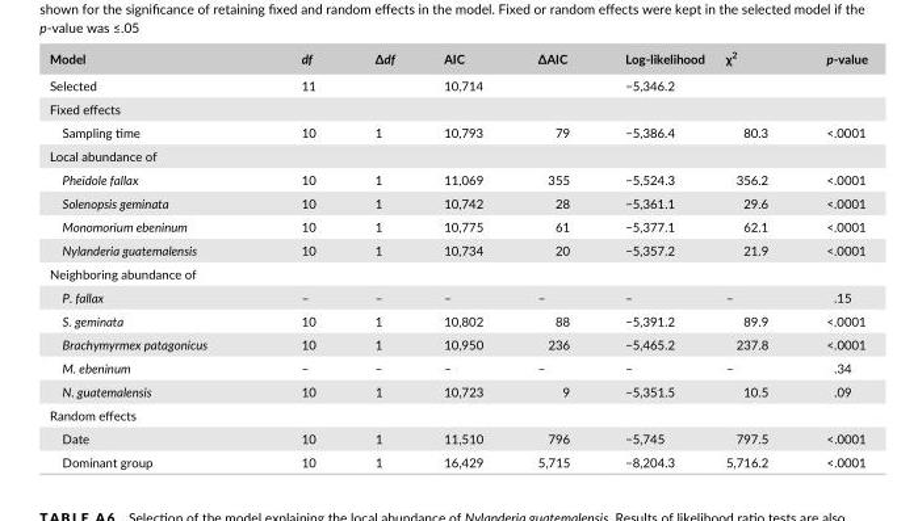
<table><thead><tr><td>Model</td><td>df</td><td>Δdf</td><td>AIC</td><td>ΔAIC</td><td>Log- likelihood</td><td>χ<sup>2</sup></td><td>p- value</td></tr></thead><tbody><tr><td>Selected</td><td>11</td><td></td><td>10,714</td><td></td><td>−5,346.2</td><td></td><td></td></tr><tr><td colspan="8">Fixed effects</td></tr><tr><td>Sampling time</td><td>10</td><td>1</td><td>10,793</td><td>79</td><td>−5,386.4</td><td>80.3</td><td>&lt;.0001</td></tr><tr><td colspan="8">Local abundance of</td></tr><tr><td>Pheidole fallax</td><td>10</td><td>1</td><td>11,069</td><td>355</td><td>−5,524.3</td><td>356.2</td><td>&lt;.0001</td></tr><tr><td>Solenopsis geminata</td><td>10</td><td>1</td><td>10,742</td><td>28</td><td>−5,361.1</td><td>29.6</td><td>&lt;.0001</td></tr><tr><td>Monomorium ebeninum</td><td>10</td><td>1</td><td>10,775</td><td>61</td><td>−5,377.1</td><td>62.1</td><td>&lt;.0001</td></tr><tr><td>Nylanderia guatemalensis</td><td>10</td><td>1</td><td>10,734</td><td>20</td><td>−5,357.2</td><td>21.9</td><td>&lt;.0001</td></tr><tr><td colspan="8">Neighboring abundance of</td></tr><tr><td>P. fallax</td><td>–</td><td>–</td><td>–</td><td>–</td><td>–</td><td>–</td><td>.15</td></tr><tr><td>S. geminata</td><td>10</td><td>1</td><td>10,802</td><td>88</td><td>−5,391.2</td><td>89.9</td><td>&lt;.0001</td></tr><tr><td>Brachymyrmex patagonicus</td><td>10</td><td>1</td><td>10,950</td><td>236</td><td>−5,465.2</td><td>237.8</td><td>&lt;.0001</td></tr><tr><td>M. ebeninum</td><td>–</td><td>–</td><td>–</td><td>–</td><td>–</td><td>–</td><td>.34</td></tr><tr><td>N. guatemalensis</td><td>10</td><td>1</td><td>10,723</td><td>9</td><td>−5,351.5</td><td>10.5</td><td>.09</td></tr><tr><td colspan="8">Random effects</td></tr><tr><td>Date</td><td>10</td><td>1</td><td>11,510</td><td>796</td><td>−5,745</td><td>797.5</td><td>&lt;.0001</td></tr><tr><td>Dominant group</td><td>10</td><td>1</td><td>16,429</td><td>5,715</td><td>−8,204.3</td><td>5,716.2</td><td>&lt;.0001</td></tr></tbody></table>